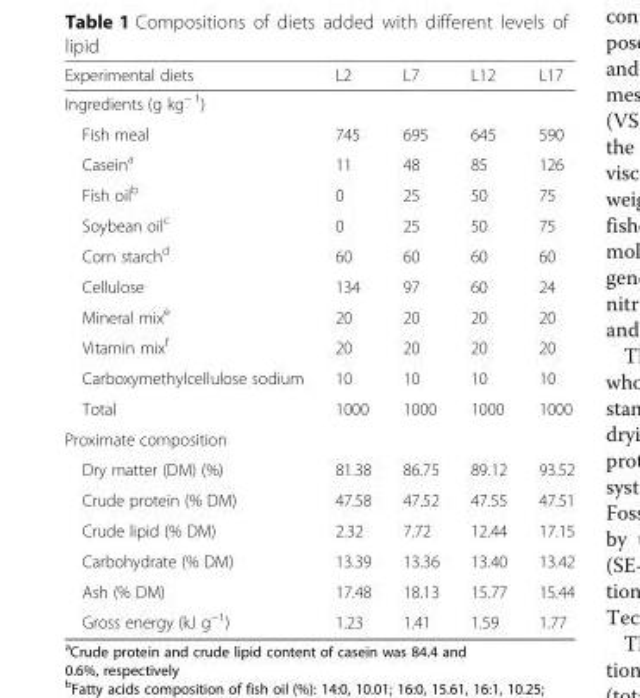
<table><thead><tr><td>Experimental diets</td><td>L2</td><td>L7</td><td>L12</td><td>L17</td></tr></thead><tbody><tr><td colspan="5">Ingredients (g kg<sup>− 1</sup>)</td></tr><tr><td>Fish meal</td><td>745</td><td>695</td><td>645</td><td>590</td></tr><tr><td>Casein<sup>a</sup></td><td>11</td><td>48</td><td>85</td><td>126</td></tr><tr><td>Fish oil<sup>b</sup></td><td>0</td><td>25</td><td>50</td><td>75</td></tr><tr><td>Soybean oil<sup>c</sup></td><td>0</td><td>25</td><td>50</td><td>75</td></tr><tr><td>Corn starch<sup>d</sup></td><td>60</td><td>60</td><td>60</td><td>60</td></tr><tr><td>Cellulose</td><td>134</td><td>97</td><td>60</td><td>24</td></tr><tr><td>Mineral mix<sup>e</sup></td><td>20</td><td>20</td><td>20</td><td>20</td></tr><tr><td>Vitamin mix<sup>f</sup></td><td>20</td><td>20</td><td>20</td><td>20</td></tr><tr><td>Carboxymethylcellulose sodium</td><td>10</td><td>10</td><td>10</td><td>10</td></tr><tr><td>Total</td><td>1000</td><td>1000</td><td>1000</td><td>1000</td></tr><tr><td colspan="5">Proximate composition</td></tr><tr><td>Dry matter (DM) (%)</td><td>81.38</td><td>86.75</td><td>89.12</td><td>93.52</td></tr><tr><td>Crude protein (% DM)</td><td>47.58</td><td>47.52</td><td>47.55</td><td>47.51</td></tr><tr><td>Crude lipid (% DM)</td><td>2.32</td><td>7.72</td><td>12.44</td><td>17.15</td></tr><tr><td>Carbohydrate (% DM)</td><td>13.39</td><td>13.36</td><td>13.40</td><td>13.42</td></tr><tr><td>Ash (% DM)</td><td>17.48</td><td>18.13</td><td>15.77</td><td>15.44</td></tr><tr><td>Gross energy (kJ g<sup>−1</sup>)</td><td>1.23</td><td>1.41</td><td>1.59</td><td>1.77</td></tr></tbody></table>